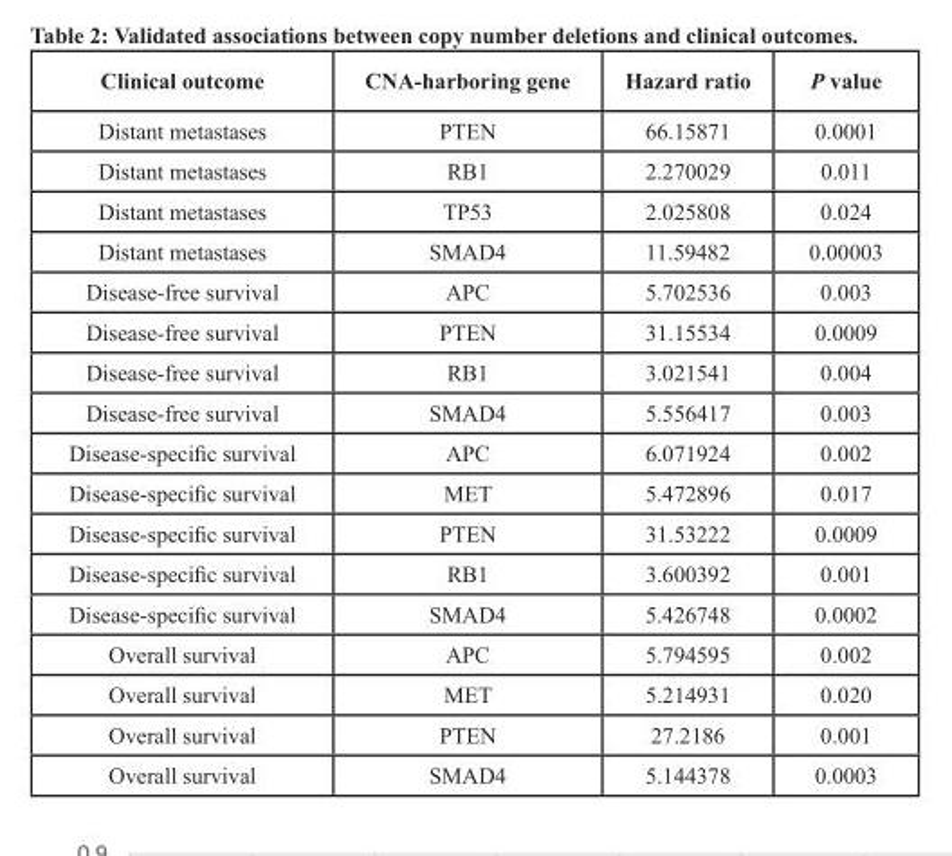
<table><thead><tr><td>Clinical outcome</td><td>CNA-harboring gene</td><td>Hazard ratio</td><td>P value</td></tr></thead><tbody><tr><td>Distant metastases</td><td>PTEN</td><td>66.15871</td><td>0.0001</td></tr><tr><td>Distant metastases</td><td>RB1</td><td>2.270029</td><td>0.011</td></tr><tr><td>Distant metastases</td><td>TP53</td><td>2.025808</td><td>0.024</td></tr><tr><td>Distant metastases</td><td>SMAD4</td><td>11.59482</td><td>0.00003</td></tr><tr><td>Disease-free survival</td><td>APC</td><td>5.702536</td><td>0.003</td></tr><tr><td>Disease-free survival</td><td>PTEN</td><td>31.15534</td><td>0.0009</td></tr><tr><td>Disease-free survival</td><td>RB1</td><td>3.021541</td><td>0.004</td></tr><tr><td>Disease-free survival</td><td>SMAD4</td><td>5.556417</td><td>0.003</td></tr><tr><td>Disease-specific survival</td><td>APC</td><td>6.071924</td><td>0.002</td></tr><tr><td>Disease-specific survival</td><td>MET</td><td>5.472896</td><td>0.017</td></tr><tr><td>Disease-specific survival</td><td>PTEN</td><td>31.53222</td><td>0.0009</td></tr><tr><td>Disease-specific survival</td><td>RB1</td><td>3.600392</td><td>0.001</td></tr><tr><td>Disease-specific survival</td><td>SMAD4</td><td>5.426748</td><td>0.0002</td></tr><tr><td>Overall survival</td><td>APC</td><td>5.794595</td><td>0.002</td></tr><tr><td>Overall survival</td><td>MET</td><td>5.214931</td><td>0.020</td></tr><tr><td>Overall survival</td><td>PTEN</td><td>27.2186</td><td>0.001</td></tr><tr><td>Overall survival</td><td>SMAD4</td><td>5.144378</td><td>0.0003</td></tr></tbody></table>